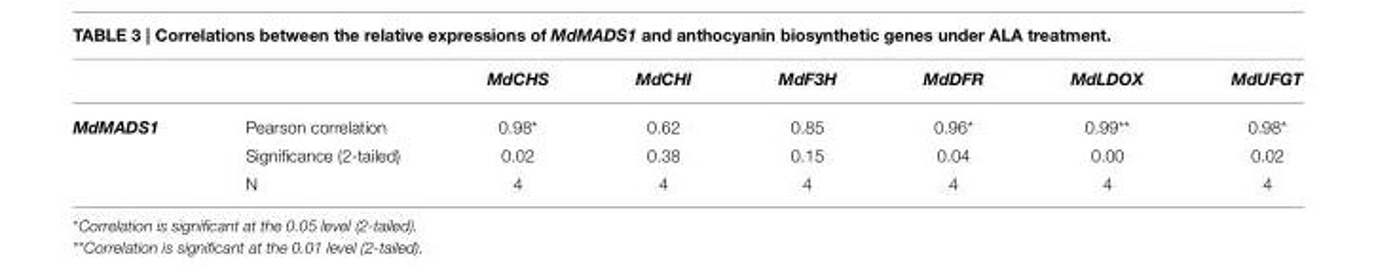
<table><thead><tr><td></td><td></td><td>MdCHS</td><td>MdCHI</td><td>MdF3H</td><td>MdDFR</td><td>MdLDOX</td><td>MdUFGT</td></tr></thead><tbody><tr><td rowspan="3">MdMADS1</td><td>Pearson correlation</td><td>0.98*</td><td>0.62</td><td>0.85</td><td>0.96*</td><td>0.99**</td><td>0.98*</td></tr><tr><td>Significance (2-tailed)</td><td>0.02</td><td>0.38</td><td>0.15</td><td>0.04</td><td>0.00</td><td>0.02</td></tr><tr><td>N</td><td>4</td><td>4</td><td>4</td><td>4</td><td>4</td><td>4</td></tr></tbody></table>